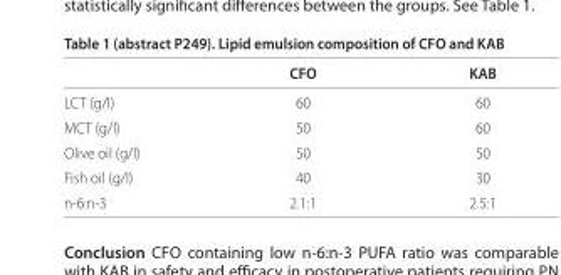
<table><thead><tr><td></td><td>CFO</td><td>KAB</td></tr></thead><tbody><tr><td>LCT (g/l)</td><td>60</td><td>60</td></tr><tr><td>MCT (g/l)</td><td>50</td><td>60</td></tr><tr><td>Olive oil (g/l)</td><td>50</td><td>50</td></tr><tr><td>Fish oil (g/l)</td><td>40</td><td>30</td></tr><tr><td>n-6:n-3</td><td>2.1:1</td><td>2.5:1</td></tr></tbody></table>